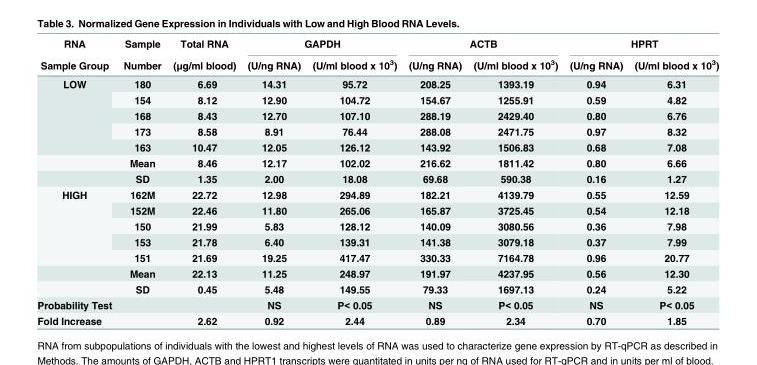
<table><thead><tr><td rowspan="2">RNA Sample Group</td><td rowspan="2">Sample Number</td><td rowspan="2">Total RNA (μg/ml blood)</td><td colspan="2">GAPDH</td><td colspan="2">ACTB</td><td colspan="2">HPRT</td></tr><tr><td>(U/ng RNA)</td><td>(U/ml blood x 10<sup>3</sup>)</td><td>(U/ng RNA)</td><td>(U/ml blood x 10<sup>3</sup>)</td><td>(U/ng RNA)</td><td>(U/ml blood x 10<sup>3</sup>)</td></tr></thead><tbody><tr><td rowspan="7">LOW</td><td>180</td><td>6.69</td><td>14.31</td><td>95.72</td><td>208.25</td><td>1393.19</td><td>0.94</td><td>6.31</td></tr><tr><td>154</td><td>8.12</td><td>12.90</td><td>104.72</td><td>154.67</td><td>1255.91</td><td>0.59</td><td>4.82</td></tr><tr><td>168</td><td>8.43</td><td>12.70</td><td>107.10</td><td>288.19</td><td>2429.40</td><td>0.80</td><td>6.76</td></tr><tr><td>173</td><td>8.58</td><td>8.91</td><td>76.44</td><td>288.08</td><td>2471.75</td><td>0.97</td><td>8.32</td></tr><tr><td>163</td><td>10.47</td><td>12.05</td><td>126.12</td><td>143.92</td><td>1506.83</td><td>0.68</td><td>7.08</td></tr><tr><td>Mean</td><td>8.46</td><td>12.17</td><td>102.02</td><td>216.62</td><td>1811.42</td><td>0.80</td><td>6.66</td></tr><tr><td>SD</td><td>1.35</td><td>2.00</td><td>18.08</td><td>69.68</td><td>590.38</td><td>0.16</td><td>1.27</td></tr><tr><td rowspan="7">HIGH</td><td>162M</td><td>22.72</td><td>12.98</td><td>294.89</td><td>182.21</td><td>4139.79</td><td>0.55</td><td>12.59</td></tr><tr><td>152M</td><td>22.46</td><td>11.80</td><td>265.06</td><td>165.87</td><td>3725.45</td><td>0.54</td><td>12.18</td></tr><tr><td>150</td><td>21.99</td><td>5.83</td><td>128.12</td><td>140.09</td><td>3080.56</td><td>0.36</td><td>7.98</td></tr><tr><td>153</td><td>21.78</td><td>6.40</td><td>139.31</td><td>141.38</td><td>3079.18</td><td>0.37</td><td>7.99</td></tr><tr><td>151</td><td>21.69</td><td>19.25</td><td>417.47</td><td>330.33</td><td>7164.78</td><td>0.96</td><td>20.77</td></tr><tr><td>Mean</td><td>22.13</td><td>11.25</td><td>248.97</td><td>191.97</td><td>4237.95</td><td>0.56</td><td>12.30</td></tr><tr><td>SD</td><td>0.45</td><td>5.48</td><td>149.55</td><td>79.33</td><td>1697.13</td><td>0.24</td><td>5.22</td></tr><tr><td>Probability Test</td><td></td><td></td><td>NS</td><td>P&lt; 0.05</td><td>NS</td><td>P&lt; 0.05</td><td>NS</td><td>P&lt; 0.05</td></tr><tr><td>Fold Increase</td><td></td><td>2.62</td><td>0.92</td><td>2.44</td><td>0.89</td><td>2.34</td><td>0.70</td><td>1.85</td></tr></tbody></table>